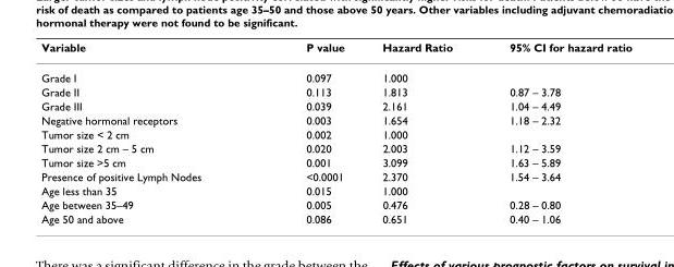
<table><thead><tr><td>Variable</td><td>P value</td><td>Hazard Ratio</td><td>95% CI for hazard ratio</td></tr></thead><tbody><tr><td>Grade I</td><td>0.097</td><td>1.000</td><td></td></tr><tr><td>Grade II</td><td>0.113</td><td>1.813</td><td>0.87 – 3.78</td></tr><tr><td>Grade III</td><td>0.039</td><td>2.161</td><td>1.04 – 4.49</td></tr><tr><td>Negative hormonal receptors</td><td>0.003</td><td>1.654</td><td>1.18 – 2.32</td></tr><tr><td>Tumor size &lt; 2 cm</td><td>0.002</td><td>1.000</td><td></td></tr><tr><td>Tumor size 2 cm – 5 cm</td><td>0.020</td><td>2.003</td><td>1.12 – 3.59</td></tr><tr><td>Tumor size &gt;5 cm</td><td>0.001</td><td>3.099</td><td>1.63 – 5.89</td></tr><tr><td>Presence of positive Lymph Nodes</td><td>&lt;0.0001</td><td>2.370</td><td>1.54 – 3.64</td></tr><tr><td>Age less than 35</td><td>0.015</td><td>1.000</td><td></td></tr><tr><td>Age between 35–49</td><td>0.005</td><td>0.476</td><td>0.28 – 0.80</td></tr><tr><td>Age 50 and above</td><td>0.086</td><td>0.651</td><td>0.40 – 1.06</td></tr></tbody></table>